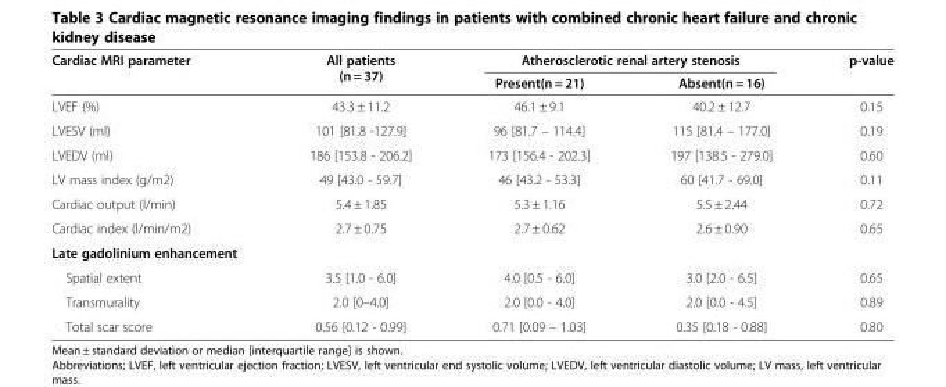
<table><thead><tr><td rowspan="2">Cardiac MRI parameter</td><td rowspan="2">All patients (n = 37)</td><td colspan="2">Atherosclerotic renal artery stenosis</td><td rowspan="2">p-value</td></tr><tr><td>Present(n = 21)</td><td>Absent(n = 16)</td></tr></thead><tbody><tr><td>LVEF (%)</td><td>43.3 ± 11.2</td><td>46.1 ± 9.1</td><td>40.2 ± 12.7</td><td>0.15</td></tr><tr><td>LVESV (ml)</td><td>101 [81.8 -127.9]</td><td>96 [81.7 – 114.4]</td><td>115 [81.4 – 177.0]</td><td>0.19</td></tr><tr><td>LVEDV (ml)</td><td>186 [153.8 - 206.2]</td><td>173 [156.4 - 202.3]</td><td>197 [138.5 - 279.0]</td><td>0.60</td></tr><tr><td>LV mass index (g/m2)</td><td>49 [43.0 - 59.7]</td><td>46 [43.2 - 53.3]</td><td>60 [41.7 - 69.0]</td><td>0.11</td></tr><tr><td>Cardiac output (l/min)</td><td>5.4 ± 1.85</td><td>5.3 ± 1.16</td><td>5.5 ± 2.44</td><td>0.72</td></tr><tr><td>Cardiac index (l/min/m2)</td><td>2.7 ± 0.75</td><td>2.7 ± 0.62</td><td>2.6 ± 0.90</td><td>0.65</td></tr><tr><td colspan="5">Late gadolinium enhancement</td></tr><tr><td>Spatial extent</td><td>3.5 [1.0 - 6.0]</td><td>4.0 [0.5 - 6.0]</td><td>3.0 [2.0 - 6.5]</td><td>0.65</td></tr><tr><td>Transmurality</td><td>2.0 [0–4.0]</td><td>2.0 [0.0 - 4.0]</td><td>2.0 [0.0 - 4.5]</td><td>0.89</td></tr><tr><td>Total scar score</td><td>0.56 [0.12 - 0.99]</td><td>0.71 [0.09 – 1.03]</td><td>0.35 [0.18 - 0.88]</td><td>0.80</td></tr></tbody></table>